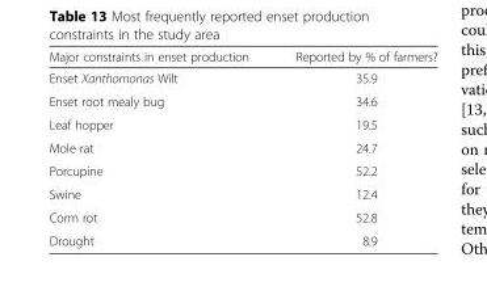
<table><thead><tr><td>Major constraints in enset production</td><td>Reported by % of farmers?</td></tr></thead><tbody><tr><td>Enset Xanthomonas Wilt</td><td>35.9</td></tr><tr><td>Enset root mealy bug</td><td>34.6</td></tr><tr><td>Leaf hopper</td><td>19.5</td></tr><tr><td>Mole rat</td><td>24.7</td></tr><tr><td>Porcupine</td><td>52.2</td></tr><tr><td>Swine</td><td>12.4</td></tr><tr><td>Corm rot</td><td>52.8</td></tr><tr><td>Drought</td><td>8.9</td></tr></tbody></table>